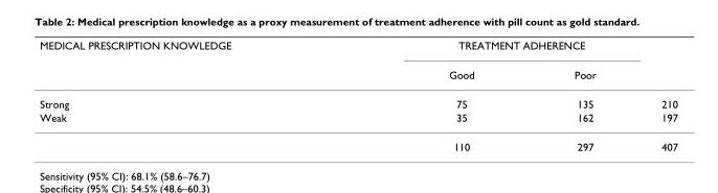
<table><thead><tr><td rowspan="2">MEDICAL PRESCRIPTION KNOWLEDGE</td><td colspan="2">TREATMENT ADHERENCE</td><td rowspan="2"></td></tr><tr><td>Good</td><td>Poor</td></tr></thead><tbody><tr><td>Strong</td><td>75</td><td>135</td><td>210</td></tr><tr><td rowspan="2">Weak</td><td>35</td><td>162</td><td>197</td></tr><tr><td>110</td><td>297</td><td>407</td></tr></tbody></table>